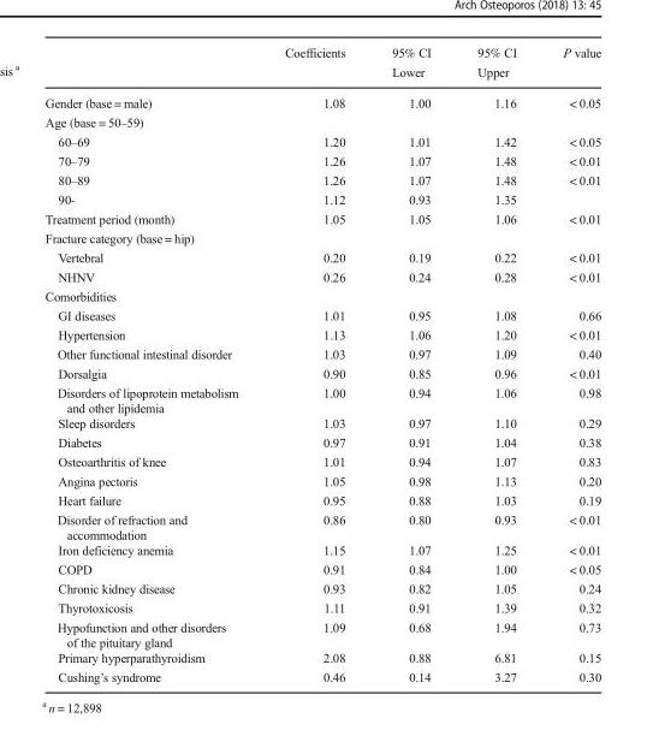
<table><thead><tr><td></td><td>Coefficients</td><td>95% CI Lower</td><td>95% CI Upper</td><td>P value</td></tr></thead><tbody><tr><td>Gender (base = male)</td><td>1.08</td><td>1.00</td><td>1.16</td><td>&lt; 0.05</td></tr><tr><td colspan="5">Age (base = 50–59)</td></tr><tr><td>60–69</td><td>1.20</td><td>1.01</td><td>1.42</td><td>&lt; 0.05</td></tr><tr><td>70–79</td><td>1.26</td><td>1.07</td><td>1.48</td><td>&lt; 0.01</td></tr><tr><td>80–89</td><td>1.26</td><td>1.07</td><td>1.48</td><td>&lt; 0.01</td></tr><tr><td>90-</td><td>1.12</td><td>0.93</td><td>1.35</td><td></td></tr><tr><td>Treatment period (month)</td><td>1.05</td><td>1.05</td><td>1.06</td><td>&lt; 0.01</td></tr><tr><td colspan="5">Fracture category (base = hip)</td></tr><tr><td>Vertebral</td><td>0.20</td><td>0.19</td><td>0.22</td><td>&lt; 0.01</td></tr><tr><td>NHNV</td><td>0.26</td><td>0.24</td><td>0.28</td><td>&lt; 0.01</td></tr><tr><td colspan="5">Comorbidities</td></tr><tr><td>GI diseases</td><td>1.01</td><td>0.95</td><td>1.08</td><td>0.66</td></tr><tr><td>Hypertension</td><td>1.13</td><td>1.06</td><td>1.20</td><td>&lt; 0.01</td></tr><tr><td>Other functional intestinal disorder</td><td>1.03</td><td>0.97</td><td>1.09</td><td>0.40</td></tr><tr><td>Dorsalgia</td><td>0.90</td><td>0.85</td><td>0.96</td><td>&lt; 0.01</td></tr><tr><td>Disorders of lipoprotein metabolism and other lipidemia</td><td>1.00</td><td>0.94</td><td>1.06</td><td>0.98</td></tr><tr><td>Sleep disorders</td><td>1.03</td><td>0.97</td><td>1.10</td><td>0.29</td></tr><tr><td>Diabetes</td><td>0.97</td><td>0.91</td><td>1.04</td><td>0.38</td></tr><tr><td>Osteoarthritis of knee</td><td>1.01</td><td>0.94</td><td>1.07</td><td>0.83</td></tr><tr><td>Angina pectoris</td><td>1.05</td><td>0.98</td><td>1.13</td><td>0.20</td></tr><tr><td>Heart failure</td><td>0.95</td><td>0.88</td><td>1.03</td><td>0.19</td></tr><tr><td>Disorder of refraction and accommodation</td><td>0.86</td><td>0.80</td><td>0.93</td><td>&lt; 0.01</td></tr><tr><td>Iron deficiency anemia</td><td>1.15</td><td>1.07</td><td>1.25</td><td>&lt; 0.01</td></tr><tr><td>COPD</td><td>0.91</td><td>0.84</td><td>1.00</td><td>&lt; 0.05</td></tr><tr><td>Chronic kidney disease</td><td>0.93</td><td>0.82</td><td>1.05</td><td>0.24</td></tr><tr><td>Thyrotoxicosis</td><td>1.11</td><td>0.91</td><td>1.39</td><td>0.32</td></tr><tr><td>Hypofunction and other disorders of the pituitary gland</td><td>1.09</td><td>0.68</td><td>1.94</td><td>0.73</td></tr><tr><td>Primary hyperparathyroidism</td><td>2.08</td><td>0.88</td><td>6.81</td><td>0.15</td></tr><tr><td>Cushing’s syndrome</td><td>0.46</td><td>0.14</td><td>3.27</td><td>0.30</td></tr></tbody></table>